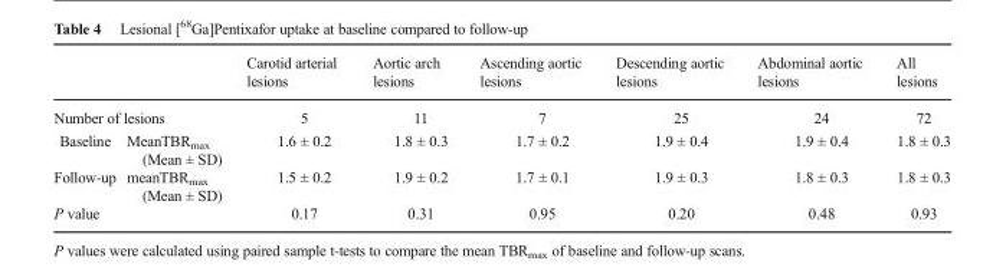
<table><thead><tr><td></td><td></td><td>Carotid arterial lesions</td><td>Aortic arch lesions</td><td>Ascending aortic lesions</td><td>Descending aortic lesions</td><td>Abdominal aortic lesions</td><td>All lesions</td></tr></thead><tbody><tr><td colspan="2">Number of lesions</td><td>5</td><td>11</td><td>7</td><td>25</td><td>24</td><td>72</td></tr><tr><td>Baseline</td><td>MeanTBR<sub>max</sub> (Mean ± SD)</td><td>1.6 ± 0.2</td><td>1.8 ± 0.3</td><td>1.7 ± 0.2</td><td>1.9 ± 0.4</td><td>1.9 ± 0.4</td><td>1.8 ± 0.3</td></tr><tr><td>Follow-up</td><td>meanTBR<sub>max</sub> (Mean ± SD)</td><td>1.5 ± 0.2</td><td>1.9 ± 0.2</td><td>1.7 ± 0.1</td><td>1.9 ± 0.3</td><td>1.8 ± 0.3</td><td>1.8 ± 0.3</td></tr><tr><td colspan="2">P value</td><td>0.17</td><td>0.31</td><td>0.95</td><td>0.20</td><td>0.48</td><td>0.93</td></tr></tbody></table>